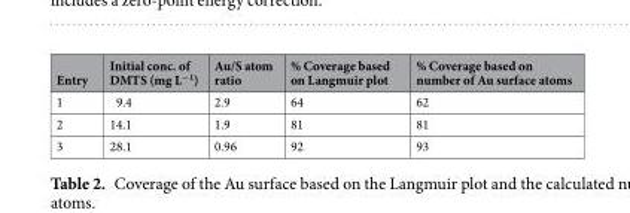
<table><thead><tr><td>Entry</td><td>Initial conc. of DMTS (mg L<sup>−1</sup>)</td><td>Au/S atom ratio</td><td>% Coverage based on Langmuir plot</td><td>% Coverage based on number of Au surface atoms</td></tr></thead><tbody><tr><td>1</td><td>9.4</td><td>2.9</td><td>64</td><td>62</td></tr><tr><td>2</td><td>14.1</td><td>1.9</td><td>81</td><td>81</td></tr><tr><td>3</td><td>28.1</td><td>0.96</td><td>92</td><td>93</td></tr></tbody></table>